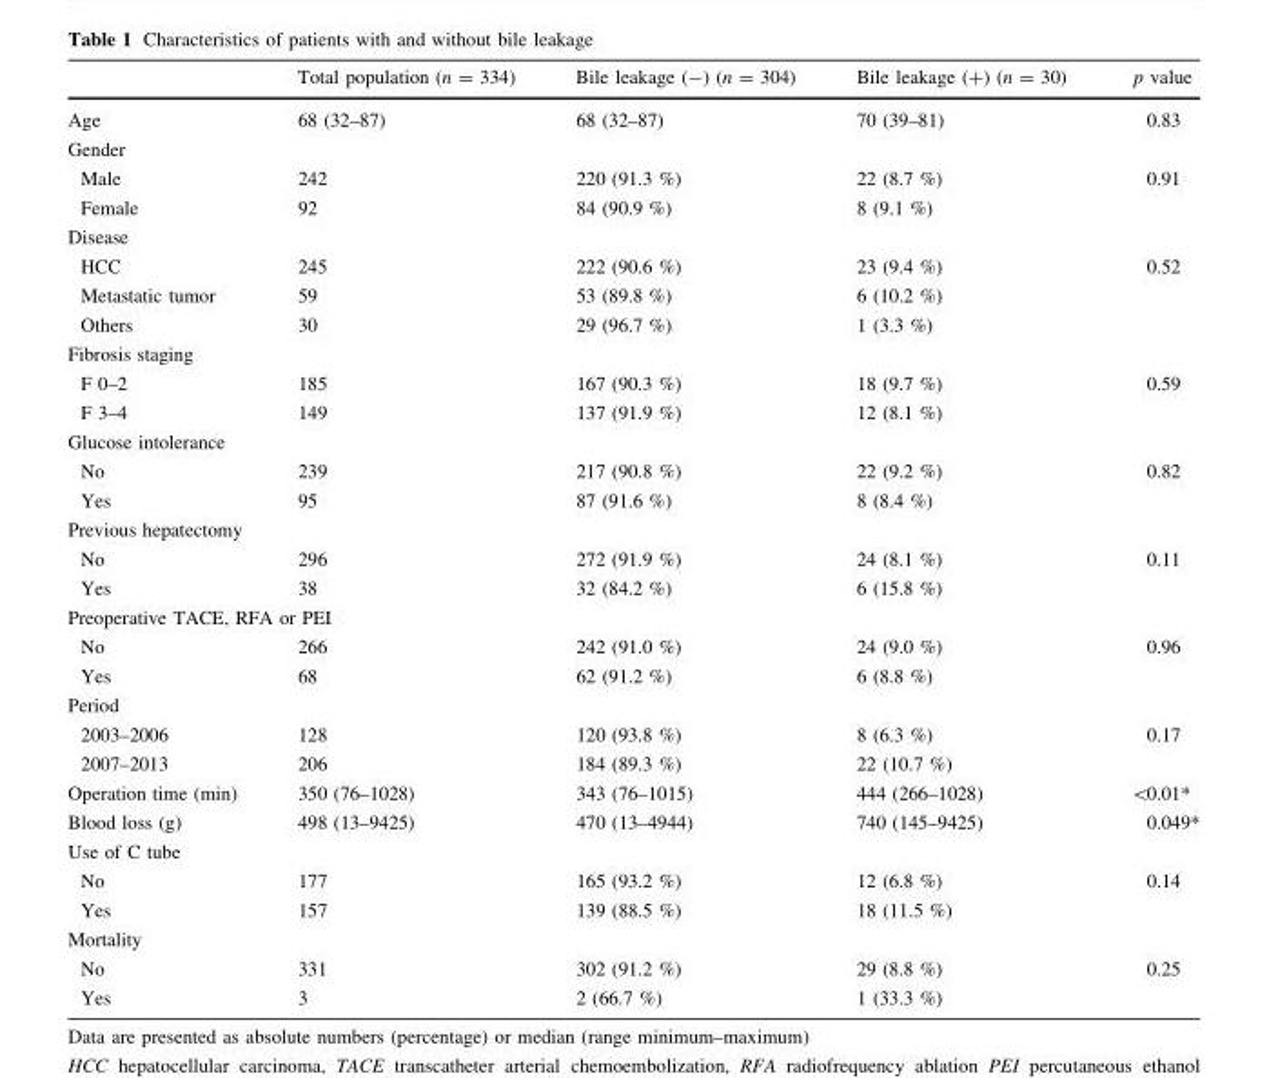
<table><thead><tr><td></td><td>Total population (n = 334)</td><td>Bile leakage (-) (n = 304)</td><td>Bile leakage (+) (n = 30)</td><td>p value</td></tr></thead><tbody><tr><td>Age</td><td>68 (32–87)</td><td>68 (32–87)</td><td>70 (39–81)</td><td>0.83</td></tr><tr><td colspan="5">Gender</td></tr><tr><td>Male</td><td>242</td><td>220 (91.3 %)</td><td>22 (8.7 %)</td><td>0.91</td></tr><tr><td>Female</td><td>92</td><td>84 (90.9 %)</td><td>8 (9.1 %)</td><td></td></tr><tr><td colspan="5">Disease</td></tr><tr><td>HCC</td><td>245</td><td>222 (90.6 %)</td><td>23 (9.4 %)</td><td>0.52</td></tr><tr><td>Metastatic tumor</td><td>59</td><td>53 (89.8 %)</td><td>6 (10.2 %)</td><td></td></tr><tr><td>Others</td><td>30</td><td>29 (96.7 %)</td><td>1 (3.3 %)</td><td></td></tr><tr><td colspan="5">Fibrosis staging</td></tr><tr><td>F 0–2</td><td>185</td><td>167 (90.3 %)</td><td>18 (9.7 %)</td><td>0.59</td></tr><tr><td>F 3–4</td><td>149</td><td>137 (91.9 %)</td><td>12 (8.1 %)</td><td></td></tr><tr><td colspan="5">Glucose intolerance</td></tr><tr><td>No</td><td>239</td><td>217 (90.8 %)</td><td>22 (9.2 %)</td><td>0.82</td></tr><tr><td>Yes</td><td>95</td><td>87 (91.6 %)</td><td>8 (8.4 %)</td><td></td></tr><tr><td colspan="5">Previous hepatectomy</td></tr><tr><td>No</td><td>296</td><td>272 (91.9 %)</td><td>24 (8.1 %)</td><td>0.11</td></tr><tr><td>Yes</td><td>38</td><td>32 (84.2 %)</td><td>6 (15.8 %)</td><td></td></tr><tr><td colspan="5">Preoperative TACE, RFA or PEI</td></tr><tr><td>No</td><td>266</td><td>242 (91.0 %)</td><td>24 (9.0 %)</td><td>0.96</td></tr><tr><td>Yes</td><td>68</td><td>62 (91.2 %)</td><td>6 (8.8 %)</td><td></td></tr><tr><td colspan="5">Period</td></tr><tr><td>2003–2006</td><td>128</td><td>120 (93.8 %)</td><td>8 (6.3 %)</td><td>0.17</td></tr><tr><td>2007–2013</td><td>206</td><td>184 (89.3 %)</td><td>22 (10.7 %)</td><td></td></tr><tr><td>Operation time (min)</td><td>350 (76–1028)</td><td>343 (76–1015)</td><td>444 (266–1028)</td><td>&lt;0.01*</td></tr><tr><td>Blood loss (g)</td><td>498 (13–9425)</td><td>470 (13–4944)</td><td>740 (145–9425)</td><td>0.049*</td></tr><tr><td colspan="5">Use of C tube</td></tr><tr><td>No</td><td>177</td><td>165 (93.2 %)</td><td>12 (6.8 %)</td><td>0.14</td></tr><tr><td>Yes</td><td>157</td><td>139 (88.5 %)</td><td>18 (11.5 %)</td><td></td></tr><tr><td colspan="5">Mortality</td></tr><tr><td>No</td><td>331</td><td>302 (91.2 %)</td><td>29 (8.8 %)</td><td>0.25</td></tr><tr><td>Yes</td><td>3</td><td>2 (66.7 %)</td><td>1 (33.3 %)</td><td></td></tr></tbody></table>